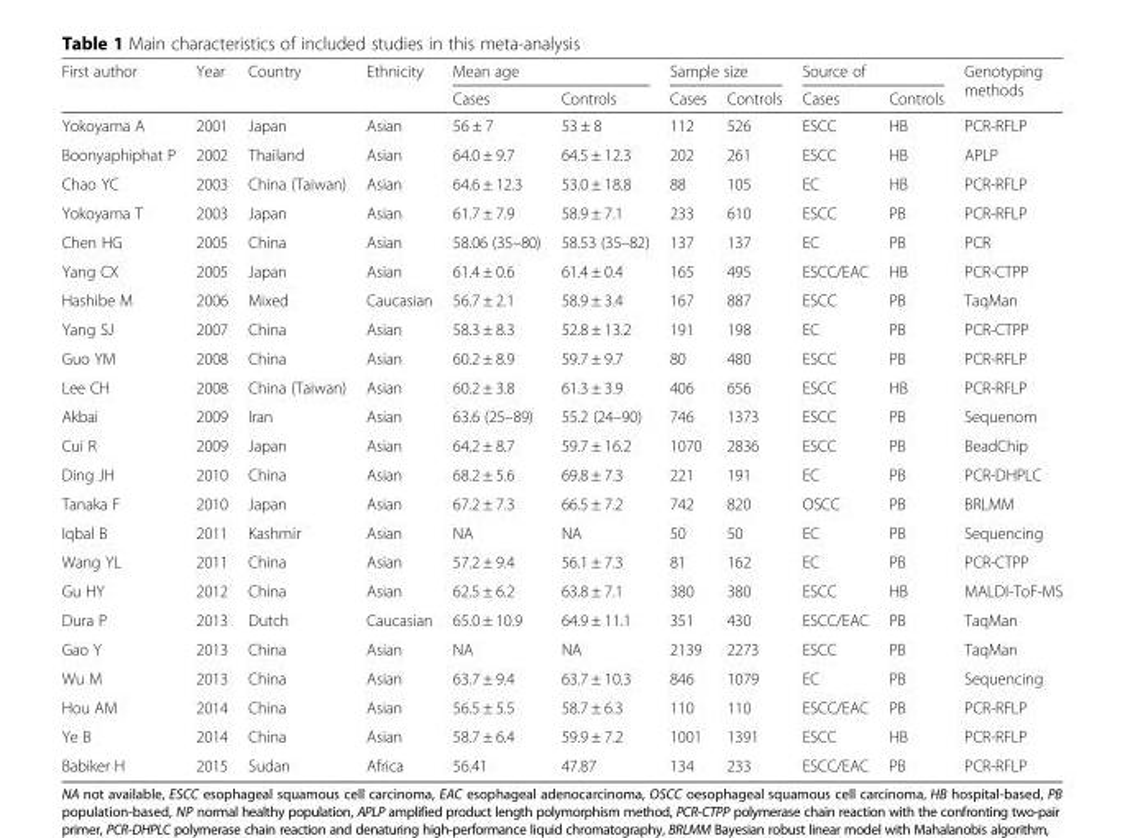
<table><thead><tr><td rowspan="2">First author</td><td rowspan="2">Year</td><td rowspan="2">Country</td><td rowspan="2">Ethnicity</td><td colspan="2">Mean age</td><td colspan="2">Sample size</td><td colspan="2">Source of</td><td rowspan="2">Genotyping methods</td></tr><tr><td>Cases</td><td>Controls</td><td>Cases</td><td>Controls</td><td>Cases</td><td>Controls</td></tr></thead><tbody><tr><td>Yokoyama A</td><td>2001</td><td>Japan</td><td>Asian</td><td>56 ± 7</td><td>53 ± 8</td><td>112</td><td>526</td><td>ESCC</td><td>HB</td><td>PCR-RFLP</td></tr><tr><td>Boonyaphiphat P</td><td>2002</td><td>Thailand</td><td>Asian</td><td>64.0 ± 9.7</td><td>64.5 ± 12.3</td><td>202</td><td>261</td><td>ESCC</td><td>HB</td><td>APLP</td></tr><tr><td>Chao YC</td><td>2003</td><td>China (Taiwan)</td><td>Asian</td><td>64.6 ± 12.3</td><td>53.0 ± 18.8</td><td>88</td><td>105</td><td>EC</td><td>HB</td><td>PCR-RFLP</td></tr><tr><td>Yokoyama T</td><td>2003</td><td>Japan</td><td>Asian</td><td>61.7 ± 7.9</td><td>58.9 ± 7.1</td><td>233</td><td>610</td><td>ESCC</td><td>PB</td><td>PCR-RFLP</td></tr><tr><td>Chen HG</td><td>2005</td><td>China</td><td>Asian</td><td>58.06 (35–80)</td><td>58.53 (35–82)</td><td>137</td><td>137</td><td>EC</td><td>PB</td><td>PCR</td></tr><tr><td>Yang CX</td><td>2005</td><td>Japan</td><td>Asian</td><td>61.4 ± 0.6</td><td>61.4 ± 0.4</td><td>165</td><td>495</td><td>ESCC/EAC</td><td>HB</td><td>PCR-CTPP</td></tr><tr><td>Hashibe M</td><td>2006</td><td>Mixed</td><td>Caucasian</td><td>56.7 ± 2.1</td><td>58.9 ± 3.4</td><td>167</td><td>887</td><td>ESCC</td><td>PB</td><td>TaqMan</td></tr><tr><td>Yang SJ</td><td>2007</td><td>China</td><td>Asian</td><td>58.3 ± 8.3</td><td>52.8 ± 13.2</td><td>191</td><td>198</td><td>EC</td><td>PB</td><td>PCR-CTPP</td></tr><tr><td>Guo YM</td><td>2008</td><td>China</td><td>Asian</td><td>60.2 ± 8.9</td><td>59.7 ± 9.7</td><td>80</td><td>480</td><td>ESCC</td><td>PB</td><td>PCR-RFLP</td></tr><tr><td>Lee CH</td><td>2008</td><td>China (Taiwan)</td><td>Asian</td><td>60.2 ± 3.8</td><td>61.3 ± 3.9</td><td>406</td><td>656</td><td>ESCC</td><td>HB</td><td>PCR-RFLP</td></tr><tr><td>Akbai</td><td>2009</td><td>Iran</td><td>Asian</td><td>63.6 (25–89)</td><td>55.2 (24–90)</td><td>746</td><td>1373</td><td>ESCC</td><td>PB</td><td>Sequenom</td></tr><tr><td>Cui R</td><td>2009</td><td>Japan</td><td>Asian</td><td>64.2 ± 8.7</td><td>59.7 ± 16.2</td><td>1070</td><td>2836</td><td>ESCC</td><td>PB</td><td>BeadChip</td></tr><tr><td>Ding JH</td><td>2010</td><td>China</td><td>Asian</td><td>68.2 ± 5.6</td><td>69.8 ± 7.3</td><td>221</td><td>191</td><td>EC</td><td>PB</td><td>PCR-DHPLC</td></tr><tr><td>Tanaka F</td><td>2010</td><td>Japan</td><td>Asian</td><td>67.2 ± 7.3</td><td>66.5 ± 7.2</td><td>742</td><td>820</td><td>OSCC</td><td>PB</td><td>BRLMM</td></tr><tr><td>Iqbal B</td><td>2011</td><td>Kashmir</td><td>Asian</td><td>NA</td><td>NA</td><td>50</td><td>50</td><td>EC</td><td>PB</td><td>Sequencing</td></tr><tr><td>Wang YL</td><td>2011</td><td>China</td><td>Asian</td><td>57.2 ± 9.4</td><td>56.1 ± 7.3</td><td>81</td><td>162</td><td>EC</td><td>PB</td><td>PCR-CTPP</td></tr><tr><td>Gu HY</td><td>2012</td><td>China</td><td>Asian</td><td>62.5 ± 6.2</td><td>63.8 ± 7.1</td><td>380</td><td>380</td><td>ESCC</td><td>HB</td><td>MALDI-ToF-MS</td></tr><tr><td>Dura P</td><td>2013</td><td>Dutch</td><td>Caucasian</td><td>65.0 ± 10.9</td><td>64.9 ± 11.1</td><td>351</td><td>430</td><td>ESCC/EAC</td><td>PB</td><td>TaqMan</td></tr><tr><td>Gao Y</td><td>2013</td><td>China</td><td>Asian</td><td>NA</td><td>NA</td><td>2139</td><td>2273</td><td>ESCC</td><td>PB</td><td>TaqMan</td></tr><tr><td>Wu M</td><td>2013</td><td>China</td><td>Asian</td><td>63.7 ± 9.4</td><td>63.7 ± 10.3</td><td>846</td><td>1079</td><td>EC</td><td>PB</td><td>Sequencing</td></tr><tr><td>Hou AM</td><td>2014</td><td>China</td><td>Asian</td><td>56.5 ± 5.5</td><td>58.7 ± 6.3</td><td>110</td><td>110</td><td>ESCC/EAC</td><td>PB</td><td>PCR-RFLP</td></tr><tr><td>Ye B</td><td>2014</td><td>China</td><td>Asian</td><td>58.7 ± 6.4</td><td>59.9 ± 7.2</td><td>1001</td><td>1391</td><td>ESCC</td><td>HB</td><td>PCR-RFLP</td></tr><tr><td>Babiker H</td><td>2015</td><td>Sudan</td><td>Africa</td><td>56.41</td><td>47.87</td><td>134</td><td>233</td><td>ESCC/EAC</td><td>PB</td><td>PCR-RFLP</td></tr></tbody></table>